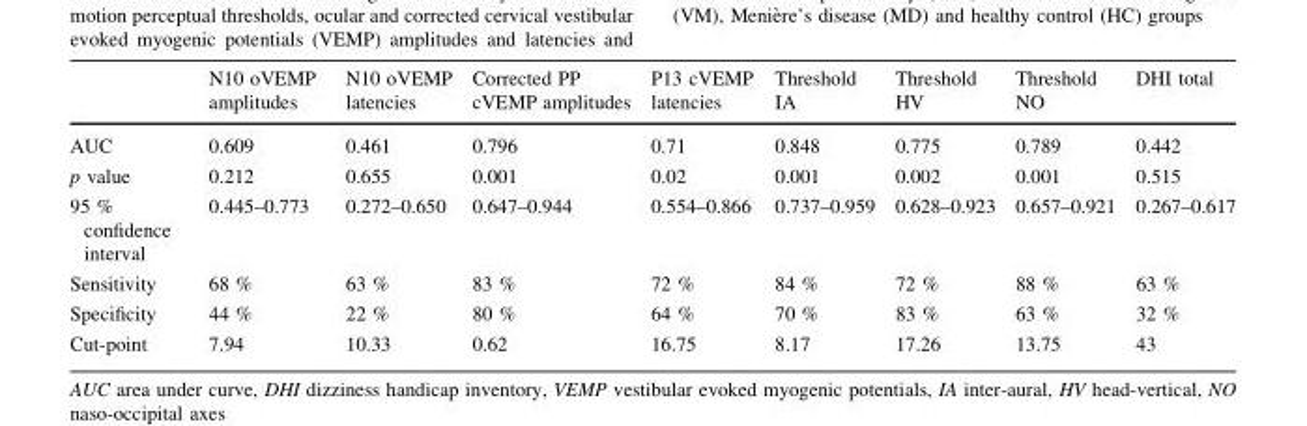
<table><thead><tr><td></td><td>N10 oVEMP amplitudes</td><td>N10 oVEMP latencies</td><td>Corrected PP cVEMP amplitudes</td><td>P13 cVEMP latencies</td><td>Threshold IA</td><td>Threshold HV</td><td>Threshold NO</td><td>DHI total</td></tr></thead><tbody><tr><td>AUC</td><td>0.609</td><td>0.461</td><td>0.796</td><td>0.71</td><td>0.848</td><td>0.775</td><td>0.789</td><td>0.442</td></tr><tr><td>p value</td><td>0.212</td><td>0.655</td><td>0.001</td><td>0.02</td><td>0.001</td><td>0.002</td><td>0.001</td><td>0.515</td></tr><tr><td>95 % confidence interval</td><td>0.445–0.773</td><td>0.272–0.650</td><td>0.647–0.944</td><td>0.554–0.866</td><td>0.737–0.959</td><td>0.628–0.923</td><td>0.657–0.921</td><td>0.267–0.617</td></tr><tr><td>Sensitivity</td><td>68 %</td><td>63 %</td><td>83 %</td><td>72 %</td><td>84 %</td><td>72 %</td><td>88 %</td><td>63 %</td></tr><tr><td>Specificity</td><td>44 %</td><td>22 %</td><td>80 %</td><td>64 %</td><td>70 %</td><td>83 %</td><td>63 %</td><td>32 %</td></tr><tr><td>Cut-point</td><td>7.94</td><td>10.33</td><td>0.62</td><td>16.75</td><td>8.17</td><td>17.26</td><td>13.75</td><td>43</td></tr></tbody></table>